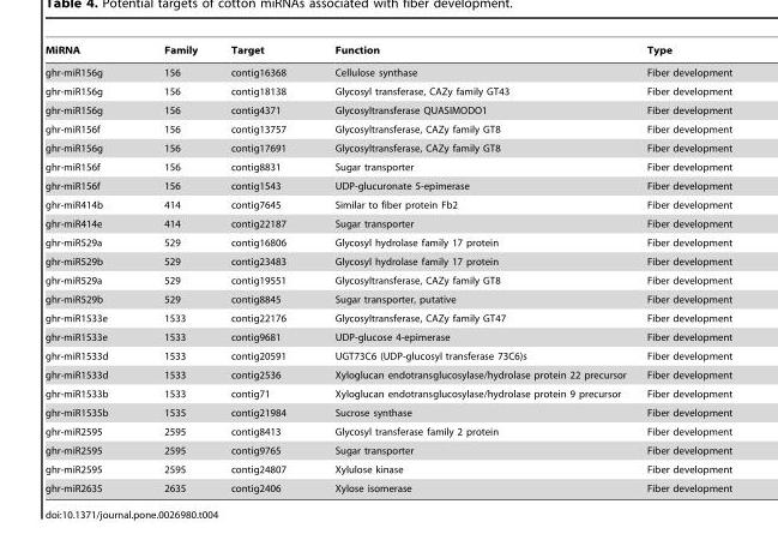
<table><thead><tr><td>MiRNA</td><td>Family</td><td>Target</td><td>Function</td><td>Type</td></tr></thead><tbody><tr><td>ghr-miR156g</td><td>156</td><td>contig16368</td><td>Cellulose synthase</td><td>Fiber development</td></tr><tr><td>ghr-miR156g</td><td>156</td><td>contig18138</td><td>Glycosyl transferase, CAZy family GT43</td><td>Fiber development</td></tr><tr><td>ghr-miR156g</td><td>156</td><td>contig4371</td><td>Glycosyltransferase QUASIMODO1</td><td>Fiber development</td></tr><tr><td>ghr-miR156f</td><td>156</td><td>contig13757</td><td>Glycosyltransferase, CAZy family GT8</td><td>Fiber development</td></tr><tr><td>ghr-miR156g</td><td>156</td><td>contig17691</td><td>Glycosyltransferase, CAZy family GT8</td><td>Fiber development</td></tr><tr><td>ghr-miR156f</td><td>156</td><td>contig8831</td><td>Sugar transporter</td><td>Fiber development</td></tr><tr><td>ghr-miR156f</td><td>156</td><td>contig1543</td><td>UDP-glucuronate 5-epimerase</td><td>Fiber development</td></tr><tr><td>ghr-miR414b</td><td>414</td><td>contig7645</td><td>Similar to fiber protein Fb2</td><td>Fiber development</td></tr><tr><td>ghr-miR414e</td><td>414</td><td>contig22187</td><td>Sugar transporter</td><td>Fiber development</td></tr><tr><td>ghr-miR529a</td><td>529</td><td>contig16806</td><td>Glycosyl hydrolase family 17 protein</td><td>Fiber development</td></tr><tr><td>ghr-miR529b</td><td>529</td><td>contig23483</td><td>Glycosyl hydrolase family 17 protein</td><td>Fiber development</td></tr><tr><td>ghr-miR529a</td><td>529</td><td>contig19551</td><td>Glycosyltransferase, CAZy family GT8</td><td>Fiber development</td></tr><tr><td>ghr-miR529b</td><td>529</td><td>contig8845</td><td>Sugar transporter, putative</td><td>Fiber development</td></tr><tr><td>ghr-miR1533e</td><td>1533</td><td>contig22176</td><td>Glycosyltransferase, CAZy family GT47</td><td>Fiber development</td></tr><tr><td>ghr-miR1533e</td><td>1533</td><td>contig9681</td><td>UDP-glucose 4-epimerase</td><td>Fiber development</td></tr><tr><td>ghr-miR1533d</td><td>1533</td><td>contig20591</td><td>UGT73C6 (UDP-glucosyl transferase 73C6)s</td><td>Fiber development</td></tr><tr><td>ghr-miR1533d</td><td>1533</td><td>contig2536</td><td>Xyloglucan endotransglucosylase/hydrolase protein 22 precursor</td><td>Fiber development</td></tr><tr><td>ghr-miR1533b</td><td>1533</td><td>contig71</td><td>Xyloglucan endotransglucosylase/hydrolase protein 9 precursor</td><td>Fiber development</td></tr><tr><td>ghr-miR1535b</td><td>1535</td><td>contig21984</td><td>Sucrose synthase</td><td>Fiber development</td></tr><tr><td>ghr-miR2595</td><td>2595</td><td>contig8413</td><td>Glycosyl transferase family 2 protein</td><td>Fiber development</td></tr><tr><td>ghr-miR2595</td><td>2595</td><td>contig9765</td><td>Sugar transporter</td><td>Fiber development</td></tr><tr><td>ghr-miR2595</td><td>2595</td><td>contig24807</td><td>Xylulose kinase</td><td>Fiber development</td></tr><tr><td>ghr-miR2635</td><td>2635</td><td>contig2406</td><td>Xylose isomerase</td><td>Fiber development</td></tr></tbody></table>